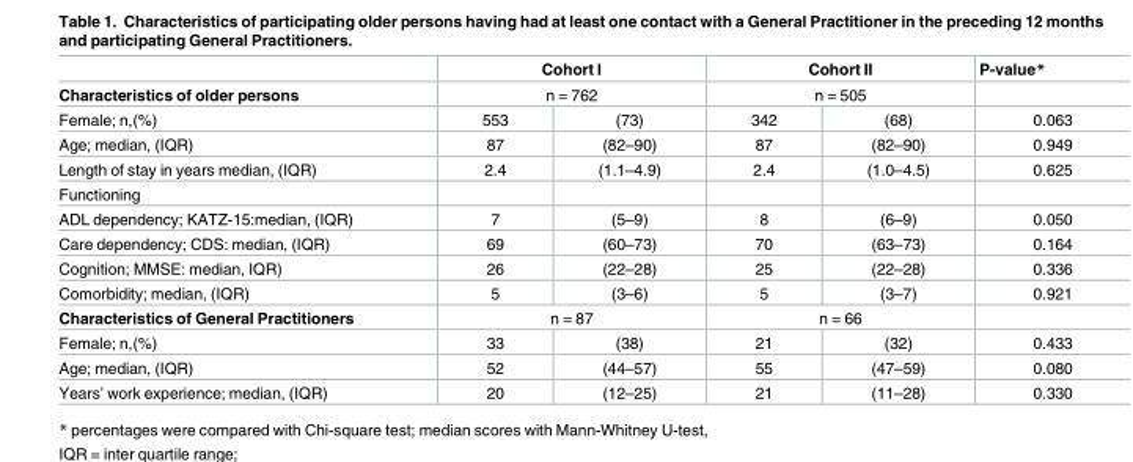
<table><thead><tr><td rowspan="3">Characteristics of older persons Female; n,(%)</td><td rowspan="2" colspan="2">Cohort I n = 762</td><td rowspan="2" colspan="2">Cohort II n = 505</td><td rowspan="3">P-value* 0.063</td></tr><tr></tr><tr><td>553</td><td>(73)</td><td>342</td><td>(68)</td></tr></thead><tbody><tr><td>Age; median, (IQR)</td><td>87</td><td>(82–90)</td><td>87</td><td>(82–90)</td><td>0.949</td></tr><tr><td>Length of stay in years median, (IQR)</td><td>2.4</td><td>(1.1–4.9)</td><td>2.4</td><td>(1.0–4.5)</td><td>0.625</td></tr><tr><td colspan="6">Functioning</td></tr><tr><td>ADL dependency; KATZ-15:median, (IQR)</td><td>7</td><td>(5–9)</td><td>8</td><td>(6–9)</td><td>0.050</td></tr><tr><td>Care dependency; CDS: median, (IQR)</td><td>69</td><td>(60–73)</td><td>70</td><td>(63–73)</td><td>0.164</td></tr><tr><td>Cognition; MMSE: median, IQR)</td><td>26</td><td>(22–28)</td><td>25</td><td>(22–28)</td><td>0.336</td></tr><tr><td>Comorbidity; median, (IQR)</td><td>5</td><td>(3–6)</td><td>5</td><td>(3–7)</td><td>0.921</td></tr><tr><td>Characteristics of General Practitioners</td><td colspan="2">n = 87</td><td colspan="2">n = 66</td><td></td></tr><tr><td>Female; n,(%)</td><td>33</td><td>(38)</td><td>21</td><td>(32)</td><td>0.433</td></tr><tr><td>Age; median, (IQR)</td><td>52</td><td>(44–57)</td><td>55</td><td>(47–59)</td><td>0.080</td></tr><tr><td>Years’ work experience; median, (IQR)</td><td>20</td><td>(12–25)</td><td>21</td><td>(11–28)</td><td>0.330</td></tr></tbody></table>